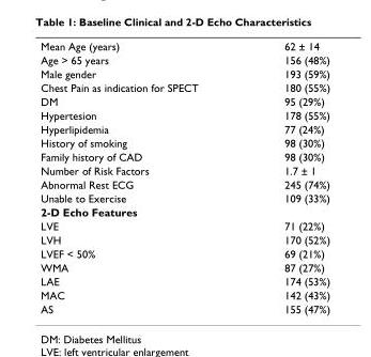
<table><tbody><tr><td>Mean Age (years)</td><td>62 ± 14</td></tr><tr><td>Age &gt; 65 years</td><td>156 (48%)</td></tr><tr><td>Male gender</td><td>193 (59%)</td></tr><tr><td>Chest Pain as indication for SPECT</td><td>180 (55%)</td></tr><tr><td>DM</td><td>95 (29%)</td></tr><tr><td>Hypertesion</td><td>178 (55%)</td></tr><tr><td>Hyperlipidemia</td><td>77 (24%)</td></tr><tr><td>History of smoking</td><td>98 (30%)</td></tr><tr><td>Family history of CAD</td><td>98 (30%)</td></tr><tr><td>Number of Risk Factors</td><td>1.7 ± 1</td></tr><tr><td>Abnormal Rest ECG</td><td>245 (74%)</td></tr><tr><td>Unable to Exercise</td><td>109 (33%)</td></tr><tr><td colspan="2">2-D Echo Features</td></tr><tr><td>LVE</td><td>71 (22%)</td></tr><tr><td>LVH</td><td>170 (52%)</td></tr><tr><td>LVEF &lt; 50%</td><td>69 (21%)</td></tr><tr><td>WMA</td><td>87 (27%)</td></tr><tr><td>LAE</td><td>174 (53%)</td></tr><tr><td>MAC</td><td>142 (43%)</td></tr><tr><td>AS</td><td>155 (47%)</td></tr></tbody></table>